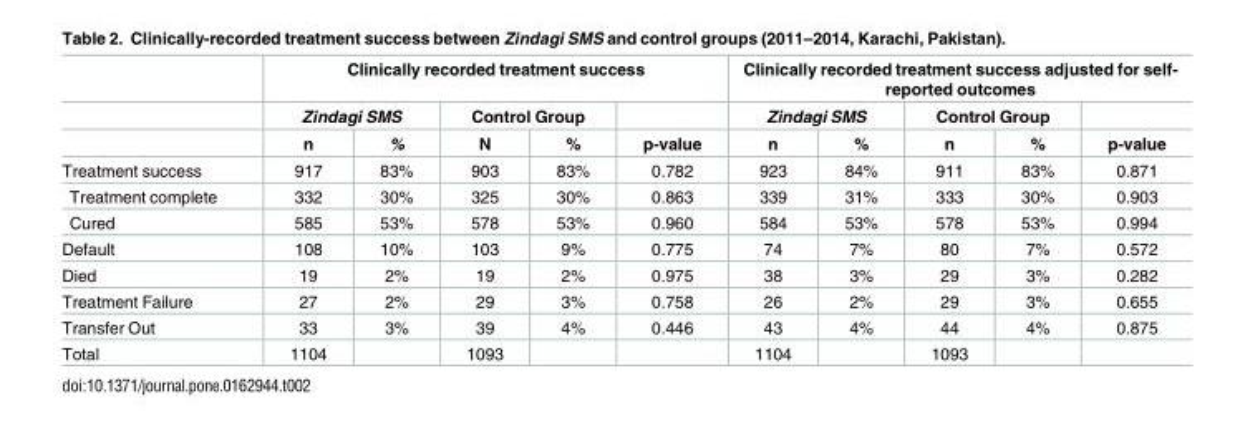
<table><thead><tr><td rowspan="3"></td><td colspan="5">Clinically recorded treatment success</td><td colspan="5">Clinically recorded treatment success adjusted for self- reported outcomes</td></tr><tr><td colspan="2">Zindagi SMS</td><td colspan="2">Control Group</td><td rowspan="2">p-value</td><td colspan="2">Zindagi SMS</td><td colspan="2">Control Group</td><td rowspan="2">p-value</td></tr><tr><td>n</td><td>%</td><td>N</td><td>%</td><td>n</td><td>%</td><td>n</td><td>%</td></tr></thead><tbody><tr><td>Treatment success</td><td>917</td><td>83%</td><td>903</td><td>83%</td><td>0.782</td><td>923</td><td>84%</td><td>911</td><td>83%</td><td>0.871</td></tr><tr><td>Treatment complete</td><td>332</td><td>30%</td><td>325</td><td>30%</td><td>0.863</td><td>339</td><td>31%</td><td>333</td><td>30%</td><td>0.903</td></tr><tr><td>Cured</td><td>585</td><td>53%</td><td>578</td><td>53%</td><td>0.960</td><td>584</td><td>53%</td><td>578</td><td>53%</td><td>0.994</td></tr><tr><td>Default</td><td>108</td><td>10%</td><td>103</td><td>9%</td><td>0.775</td><td>74</td><td>7%</td><td>80</td><td>7%</td><td>0.572</td></tr><tr><td>Died</td><td>19</td><td>2%</td><td>19</td><td>2%</td><td>0.975</td><td>38</td><td>3%</td><td>29</td><td>3%</td><td>0.282</td></tr><tr><td>Treatment Failure</td><td>27</td><td>2%</td><td>29</td><td>3%</td><td>0.758</td><td>26</td><td>2%</td><td>29</td><td>3%</td><td>0.655</td></tr><tr><td>Transfer Out</td><td>33</td><td>3%</td><td>39</td><td>4%</td><td>0.446</td><td>43</td><td>4%</td><td>44</td><td>4%</td><td>0.875</td></tr><tr><td>Total</td><td>1104</td><td></td><td>1093</td><td></td><td></td><td>1104</td><td></td><td>1093</td><td></td><td></td></tr></tbody></table>